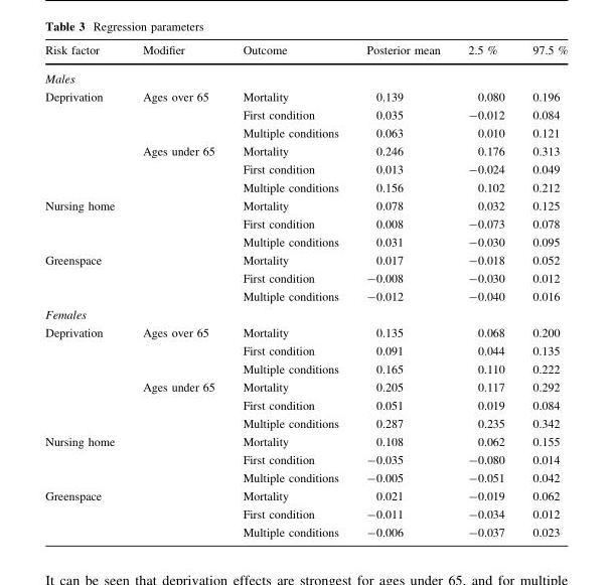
<table><thead><tr><td>Risk factor</td><td>Modifier</td><td>Outcome</td><td>Posterior mean</td><td>2.5 %</td><td>97.5 %</td></tr></thead><tbody><tr><td colspan="6">Males</td></tr><tr><td rowspan="6">Deprivation</td><td rowspan="3">Ages over 65</td><td>Mortality</td><td>0.139</td><td>0.080</td><td>0.196</td></tr><tr><td>First condition</td><td>0.035</td><td>-0.012</td><td>0.084</td></tr><tr><td>Multiple conditions</td><td>0.063</td><td>0.010</td><td>0.121</td></tr><tr><td rowspan="3">Ages under 65</td><td>Mortality</td><td>0.246</td><td>0.176</td><td>0.313</td></tr><tr><td>First condition</td><td>0.013</td><td>-0.024</td><td>0.049</td></tr><tr><td>Multiple conditions</td><td>0.156</td><td>0.102</td><td>0.212</td></tr><tr><td rowspan="3">Nursing home</td><td rowspan="3"></td><td>Mortality</td><td>0.078</td><td>0.032</td><td>0.125</td></tr><tr><td>First condition</td><td>0.008</td><td>-0.073</td><td>0.078</td></tr><tr><td>Multiple conditions</td><td>0.031</td><td>-0.030</td><td>0.095</td></tr><tr><td rowspan="3">Greenspace</td><td rowspan="3"></td><td>Mortality</td><td>0.017</td><td>-0.018</td><td>0.052</td></tr><tr><td>First condition</td><td>-0.008</td><td>-0.030</td><td>0.012</td></tr><tr><td>Multiple conditions</td><td>-0.012</td><td>-0.040</td><td>0.016</td></tr><tr><td colspan="6">Females</td></tr><tr><td rowspan="6">Deprivation</td><td rowspan="3">Ages over 65</td><td>Mortality</td><td>0.135</td><td>0.068</td><td>0.200</td></tr><tr><td>First condition</td><td>0.091</td><td>0.044</td><td>0.135</td></tr><tr><td>Multiple conditions</td><td>0.165</td><td>0.110</td><td>0.222</td></tr><tr><td rowspan="3">Ages under 65</td><td>Mortality</td><td>0.205</td><td>0.117</td><td>0.292</td></tr><tr><td>First condition</td><td>0.051</td><td>0.019</td><td>0.084</td></tr><tr><td>Multiple conditions</td><td>0.287</td><td>0.235</td><td>0.342</td></tr><tr><td rowspan="3">Nursing home</td><td rowspan="3"></td><td>Mortality</td><td>0.108</td><td>0.062</td><td>0.155</td></tr><tr><td>First condition</td><td>-0.035</td><td>-0.080</td><td>0.014</td></tr><tr><td>Multiple conditions</td><td>-0.005</td><td>-0.051</td><td>0.042</td></tr><tr><td rowspan="3">Greenspace</td><td rowspan="3"></td><td>Mortality</td><td>0.021</td><td>-0.019</td><td>0.062</td></tr><tr><td>First condition</td><td>-0.011</td><td>-0.034</td><td>0.012</td></tr><tr><td>Multiple conditions</td><td>-0.006</td><td>-0.037</td><td>0.023</td></tr></tbody></table>